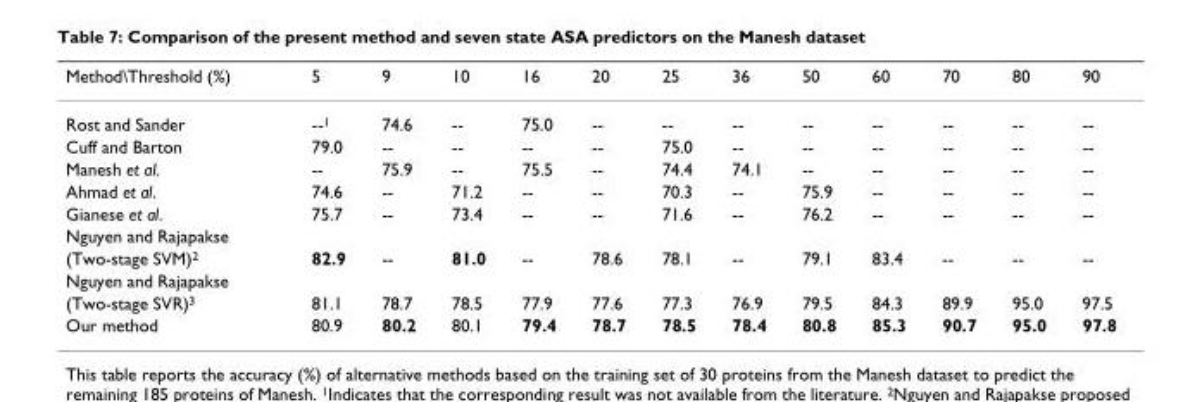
<table><thead><tr><td>Method\Threshold (%)</td><td>5</td><td>9</td><td>10</td><td>16</td><td>20</td><td>25</td><td>36</td><td>50</td><td>60</td><td>70</td><td>80</td><td>90</td></tr></thead><tbody><tr><td>Rost and Sander</td><td>--<sup>1</sup></td><td>74.6</td><td>--</td><td>75.0</td><td>--</td><td>--</td><td>--</td><td>--</td><td>--</td><td>--</td><td>--</td><td>--</td></tr><tr><td>Cuff and Barton</td><td>79.0</td><td>--</td><td>--</td><td>--</td><td>--</td><td>75.0</td><td>--</td><td>--</td><td>--</td><td>--</td><td>--</td><td>--</td></tr><tr><td>Manesh et al.</td><td>--</td><td>75.9</td><td>--</td><td>75.5</td><td>--</td><td>74.4</td><td>74.1</td><td>--</td><td>--</td><td>--</td><td>--</td><td>--</td></tr><tr><td>Ahmad et al.</td><td>74.6</td><td>--</td><td>71.2</td><td>--</td><td>--</td><td>70.3</td><td>--</td><td>75.9</td><td>--</td><td>--</td><td>--</td><td>--</td></tr><tr><td>Gianese et al.</td><td>75.7</td><td>--</td><td>73.4</td><td>--</td><td>--</td><td>71.6</td><td>--</td><td>76.2</td><td>--</td><td>--</td><td>--</td><td>--</td></tr><tr><td colspan="13">Nguyen and Rajapakse</td></tr><tr><td>(Two-stage SVM)<sup>2</sup></td><td>82.9</td><td>--</td><td>81.0</td><td>--</td><td>78.6</td><td>78.1</td><td>--</td><td>79.1</td><td>83.4</td><td>--</td><td>--</td><td>--</td></tr><tr><td colspan="13">Nguyen and Rajapakse</td></tr><tr><td>(Two-stage SVR)<sup>3</sup></td><td>81.1</td><td>78.7</td><td>78.5</td><td>77.9</td><td>77.6</td><td>77.3</td><td>76.9</td><td>79.5</td><td>84.3</td><td>89.9</td><td>95.0</td><td>97.5</td></tr><tr><td>Our method</td><td>80.9</td><td>80.2</td><td>80.1</td><td>79.4</td><td>78.7</td><td>78.5</td><td>78.4</td><td>80.8</td><td>85.3</td><td>90.7</td><td>95.0</td><td>97.8</td></tr></tbody></table>